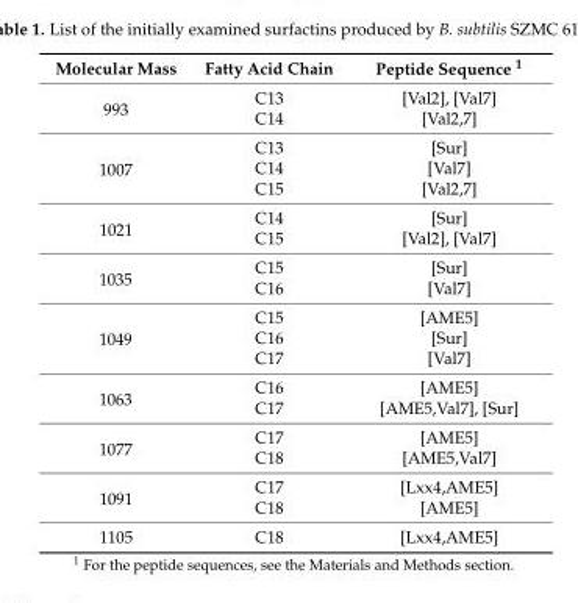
<table><thead><tr><td>Molecular Mass</td><td>Fatty Acid Chain</td><td>Peptide Sequence <sup>1</sup></td></tr></thead><tbody><tr><td rowspan="2">993</td><td>C13</td><td>[Val2], [Val7]</td></tr><tr><td>C14</td><td>[Val2,7]</td></tr><tr><td rowspan="3">1007</td><td>C13</td><td>[Sur]</td></tr><tr><td>C14</td><td>[Val7]</td></tr><tr><td>C15</td><td>[Val2,7]</td></tr><tr><td rowspan="2">1021</td><td>C14</td><td>[Sur]</td></tr><tr><td>C15</td><td>[Val2], [Val7]</td></tr><tr><td rowspan="2">1035</td><td>C15</td><td>[Sur]</td></tr><tr><td>C16</td><td>[Val7]</td></tr><tr><td rowspan="3">1049</td><td>C15</td><td>[AME5]</td></tr><tr><td>C16</td><td>[Sur]</td></tr><tr><td>C17</td><td>[Val7]</td></tr><tr><td rowspan="2">1063</td><td>C16</td><td>[AME5]</td></tr><tr><td>C17</td><td>[AME5,Val7], [Sur]</td></tr><tr><td rowspan="2">1077</td><td>C17</td><td>[AME5]</td></tr><tr><td>C18</td><td>[AME5,Val7]</td></tr><tr><td rowspan="2">1091</td><td>C17</td><td>[Lxx4,AME5]</td></tr><tr><td>C18</td><td>[AME5]</td></tr><tr><td>1105</td><td>C18</td><td>[Lxx4,AME5]</td></tr></tbody></table>